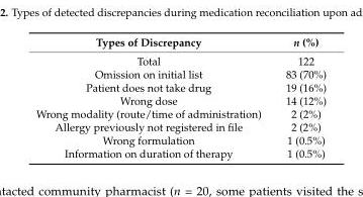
<table><thead><tr><td>Types of Discrepancy</td><td>n (%)</td></tr></thead><tbody><tr><td>Total</td><td>122</td></tr><tr><td>Omission on initial list</td><td>83 (70%)</td></tr><tr><td>Patient does not take drug</td><td>19 (16%)</td></tr><tr><td>Wrong dose</td><td>14 (12%)</td></tr><tr><td>Wrong modality (route/time of administration)</td><td>2 (2%)</td></tr><tr><td>Allergy previously not registered in file</td><td>2 (2%)</td></tr><tr><td>Wrong formulation</td><td>1 (0.5%)</td></tr><tr><td>Information on duration of therapy</td><td>1 (0.5%)</td></tr></tbody></table>